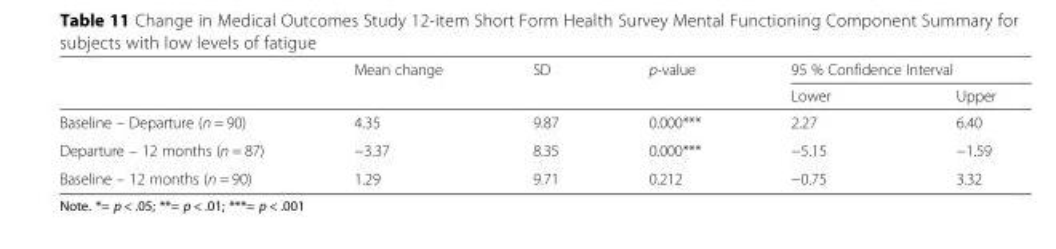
<table><thead><tr><td rowspan="2"></td><td rowspan="2">Mean change</td><td rowspan="2">SD</td><td rowspan="2">p-value</td><td colspan="2">95 % Confidence Interval</td></tr><tr><td>Lower</td><td>Upper</td></tr></thead><tbody><tr><td>Baseline – Departure (n = 90)</td><td>4.35</td><td>9.87</td><td>0.000***</td><td>2.27</td><td>6.40</td></tr><tr><td>Departure – 12 months (n = 87)</td><td>−3.37</td><td>8.35</td><td>0.000***</td><td>−5.15</td><td>−1.59</td></tr><tr><td>Baseline – 12 months (n = 90)</td><td>1.29</td><td>9.71</td><td>0.212</td><td>−0.75</td><td>3.32</td></tr></tbody></table>